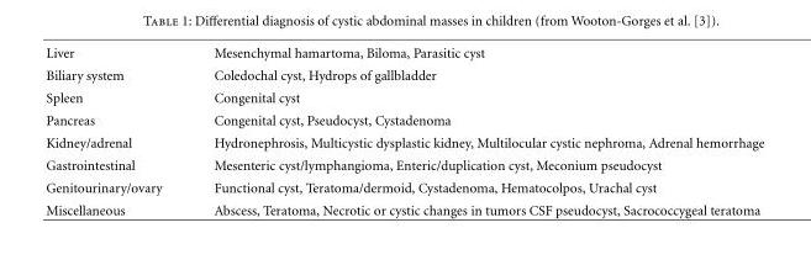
<table><tbody><tr><td>Liver</td><td>Mesenchymal hamartoma, Biloma, Parasitic cyst</td></tr><tr><td>Biliary system</td><td>Coledochal cyst, Hydrops of gallbladder</td></tr><tr><td>Spleen</td><td>Congenital cyst</td></tr><tr><td>Pancreas</td><td>Congenital cyst, Pseudocyst, Cystadenoma</td></tr><tr><td>Kidney/adrenal</td><td>Hydronephrosis, Multicystic dysplastic kidney, Multilocular cystic nephroma, Adrenal hemorrhage</td></tr><tr><td>Gastrointestinal</td><td>Mesenteric cyst/lymphangioma, Enteric/duplication cyst, Meconium pseudocyst</td></tr><tr><td>Genitourinary/ovary</td><td>Functional cyst, Teratoma/dermoid, Cystadenoma, Hematocolpos, Urachal cyst</td></tr><tr><td>Miscellaneous</td><td>Abscess, Teratoma, Necrotic or cystic changes in tumors CSF pseudocyst, Sacrococcygeal teratoma</td></tr></tbody></table>